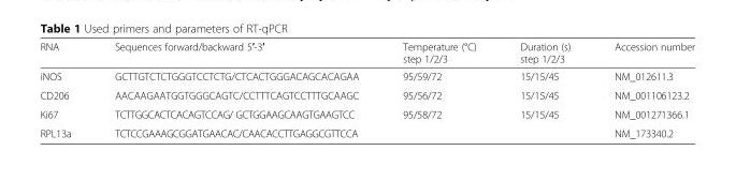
<table><thead><tr><td>RNA</td><td>Sequences forward/backward 5′-3′</td><td>Temperature (°C) step 1/2/3</td><td>Duration (s) step 1/2/3</td><td>Accession number</td></tr></thead><tbody><tr><td>iNOS</td><td>GCTTGTCTCTGGGTCCTCTG/CTCACTGGGACAGCACAGAA</td><td>95/59/72</td><td>15/15/45</td><td>NM_012611.3</td></tr><tr><td>CD206</td><td>AACAAGAATGGTGGGCAGTC/CCTTTCAGTCCTTTGCAAGC</td><td>95/56/72</td><td>15/15/45</td><td>NM_001106123.2</td></tr><tr><td>Ki67</td><td>TCTTGGCACTCACAGTCCAG/ GCTGGAAGCAAGTGAAGTCC</td><td>95/58/72</td><td>15/15/45</td><td>NM_001271366.1</td></tr><tr><td>RPL13a</td><td>TCTCCGAAAGCGGATGAACAC/CAACACCTTGAGGCGTTCCA</td><td></td><td></td><td>NM_173340.2</td></tr></tbody></table>